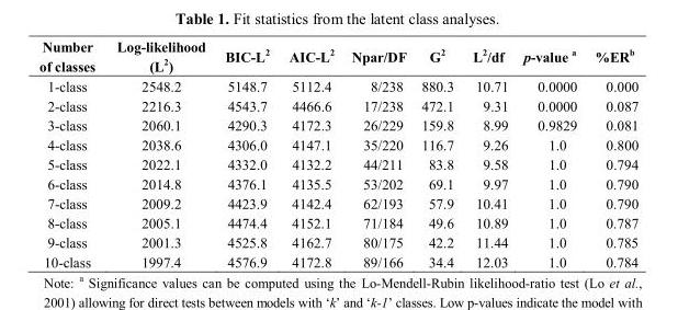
<table><thead><tr><td>Number of classes</td><td>Log-likelihood (L<sup>2</sup>)</td><td>BIC-L<sup>2</sup></td><td>AIC-L<sup>2</sup></td><td>Npar/DF</td><td>G<sup>2</sup></td><td>L<sup>2</sup>/df</td><td>p-value <sup>a</sup></td><td>%ER<sup>b</sup></td></tr></thead><tbody><tr><td>1-class</td><td>2548.2</td><td>5148.7</td><td>5112.4</td><td>8/238</td><td>880.3</td><td>10.71</td><td>0.0000</td><td>0.000</td></tr><tr><td>2-class</td><td>2216.3</td><td>4543.7</td><td>4466.6</td><td>17/238</td><td>472.1</td><td>9.31</td><td>0.0000</td><td>0.087</td></tr><tr><td>3-class</td><td>2060.1</td><td>4290.3</td><td>4172.3</td><td>26/229</td><td>159.8</td><td>8.99</td><td>0.9829</td><td>0.081</td></tr><tr><td>4-class</td><td>2038.6</td><td>4306.0</td><td>4147.1</td><td>35/220</td><td>116.7</td><td>9.26</td><td>1.0</td><td>0.800</td></tr><tr><td>5-class</td><td>2022.1</td><td>4332.0</td><td>4132.2</td><td>44/211</td><td>83.8</td><td>9.58</td><td>1.0</td><td>0.794</td></tr><tr><td>6-class</td><td>2014.8</td><td>4376.1</td><td>4135.5</td><td>53/202</td><td>69.1</td><td>9.97</td><td>1.0</td><td>0.790</td></tr><tr><td>7-class</td><td>2009.2</td><td>4423.9</td><td>4142.4</td><td>62/193</td><td>57.9</td><td>10.41</td><td>1.0</td><td>0.790</td></tr><tr><td>8-class</td><td>2005.1</td><td>4474.4</td><td>4152.1</td><td>71/184</td><td>49.6</td><td>10.89</td><td>1.0</td><td>0.787</td></tr><tr><td>9-class</td><td>2001.3</td><td>4525.8</td><td>4162.7</td><td>80/175</td><td>42.2</td><td>11.44</td><td>1.0</td><td>0.785</td></tr><tr><td>10-class</td><td>1997.4</td><td>4576.9</td><td>4172.8</td><td>89/166</td><td>34.4</td><td>12.03</td><td>1.0</td><td>0.784</td></tr></tbody></table>